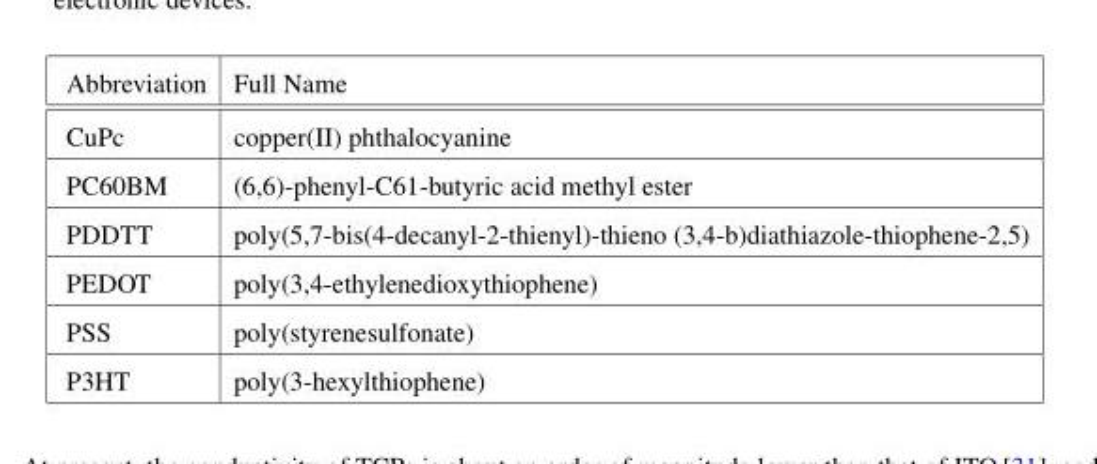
<table><thead><tr><td>Abbreviation</td><td>Full Name</td></tr></thead><tbody><tr><td>CuPc</td><td>copper(II) phthalocyanine</td></tr><tr><td>PC60BM</td><td>(6,6)-phenyl-C61-butyric acid methyl ester</td></tr><tr><td>PDDTT</td><td>poly(5,7-bis(4-decanyl-2-thienyl)-thieno (3,4-b)diathiazole-thiophene-2,5)</td></tr><tr><td>PEDOT</td><td>poly(3,4-ethylenedioxythiophene)</td></tr><tr><td>PSS</td><td>poly(styrenesulfonate)</td></tr><tr><td>P3HT</td><td>poly(3-hexylthiophene)</td></tr></tbody></table>